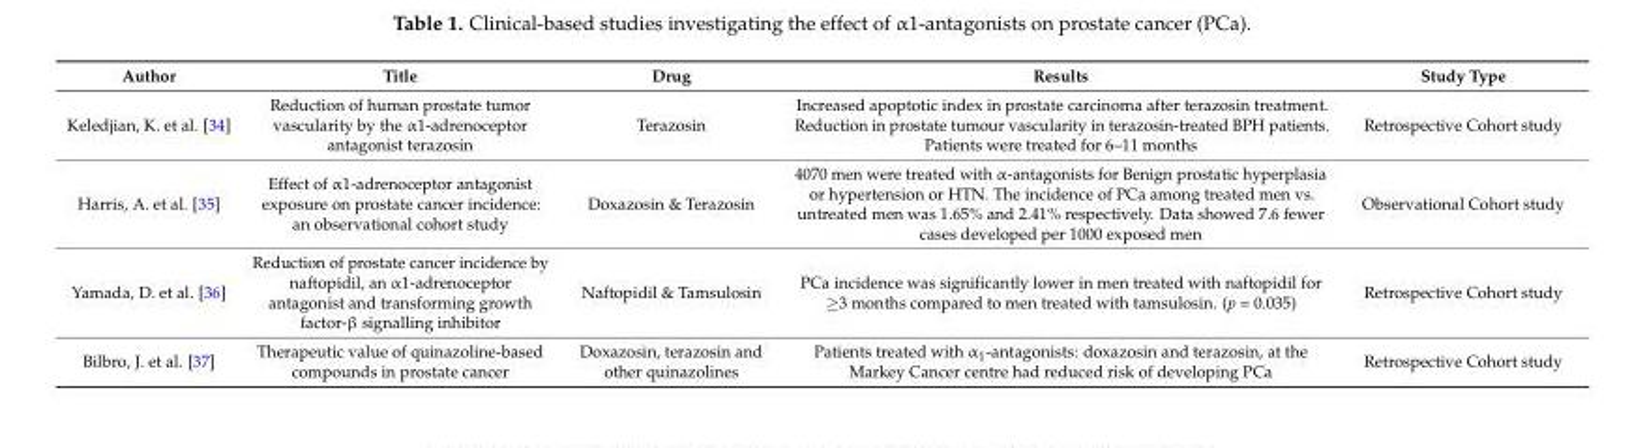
<table><thead><tr><td>Author</td><td>Title</td><td>Drug</td><td>Results</td><td>Study Type</td></tr></thead><tbody><tr><td>Keledjian, K. et al. [34]</td><td>Reduction of human prostate tumor vascularity by the α1-adrenoceptor antagonist terazosin</td><td>Terazosin</td><td>Increased apoptotic index in prostate carcinoma after terazosin treatment. Reduction in prostate tumour vascularity in terazosin-treated BPH patients. Patients were treated for 6–11 months</td><td>Retrospective Cohort study</td></tr><tr><td>Harris, A. et al. [35]</td><td>Effect of α1-adrenoceptor antagonist exposure on prostate cancer incidence: an observational cohort study</td><td>Doxazosin &amp; Terazosin</td><td>4070 men were treated with α-antagonists for Benign prostatic hyperplasia or hypertension or HTN. The incidence of PCa among treated men vs. untreated men was 1.65% and 2.41% respectively. Data showed 7.6 fewer cases developed per 1000 exposed men</td><td>Observational Cohort study</td></tr><tr><td>Yamada, D. et al. [36]</td><td>Reduction of prostate cancer incidence by naftopidil, an α1-adrenoceptor antagonist and transforming growth factor-β signalling inhibitor</td><td>Naftopidil &amp; Tamsulosin</td><td>PCa incidence was significantly lower in men treated with naftopidil for ≥3 months compared to men treated with tamsulosin. (p = 0.035)</td><td>Retrospective Cohort study</td></tr><tr><td>Bilbro, J. et al. [37]</td><td>Therapeutic value of quinazoline-based compounds in prostate cancer</td><td>Doxazosin, terazosin and other quinazolines</td><td>Patients treated with α<sub>1</sub>-antagonists: doxazosin and terazosin, at the Markey Cancer centre had reduced risk of developing PCa</td><td>Retrospective Cohort study</td></tr></tbody></table>